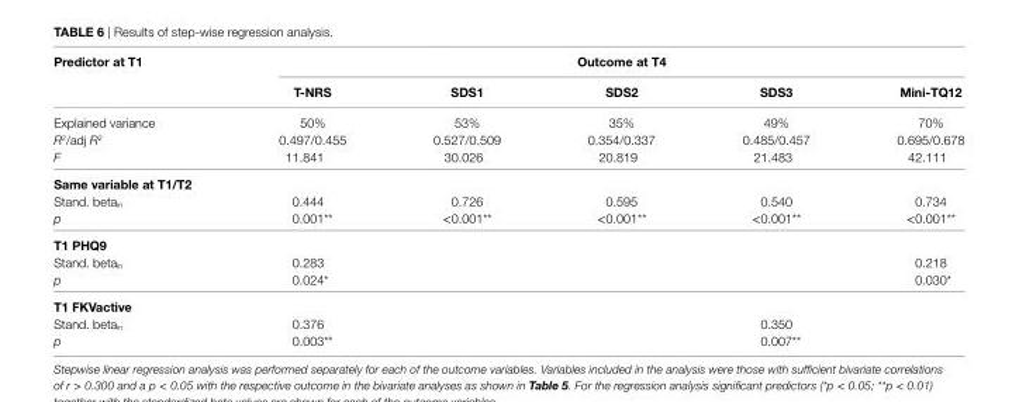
<table><thead><tr><td rowspan="2">Predictor at T1</td><td colspan="5">Outcome at T4</td></tr><tr><td>T-nrs</td><td>sDs1</td><td>sDs2</td><td>sDs3</td><td>Mini-TQ12</td></tr></thead><tbody><tr><td>Explained variance</td><td>50%</td><td>53%</td><td>35%</td><td>49%</td><td>70%</td></tr><tr><td>R<sup>2</sup>/adj R<sup>2</sup></td><td>0.497/0.455</td><td>0.527/0.509</td><td>0.354/0.337</td><td>0.485/0.457</td><td>0.695/0.678</td></tr><tr><td>F</td><td>11.841</td><td>30.026</td><td>20.819</td><td>21.483</td><td>42.111</td></tr><tr><td colspan="6">same variable at T1/T2</td></tr><tr><td>Stand. beta<sub>in</sub></td><td>0.444</td><td>0.726</td><td>0.595</td><td>0.540</td><td>0.734</td></tr><tr><td>p</td><td>0.001**</td><td>&lt;0.001**</td><td>&lt;0.001**</td><td>&lt;0.001**</td><td>&lt;0.001**</td></tr><tr><td colspan="6">T1 PhQ9</td></tr><tr><td>Stand. beta<sub>in</sub></td><td>0.283</td><td></td><td></td><td></td><td>0.218</td></tr><tr><td>p</td><td>0.024*</td><td></td><td></td><td></td><td>0.030*</td></tr><tr><td colspan="6">T1 FKVactive</td></tr><tr><td>Stand. beta<sub>in</sub></td><td>0.376</td><td></td><td></td><td>0.350</td><td></td></tr><tr><td>p</td><td>0.003**</td><td></td><td></td><td>0.007**</td><td></td></tr></tbody></table>